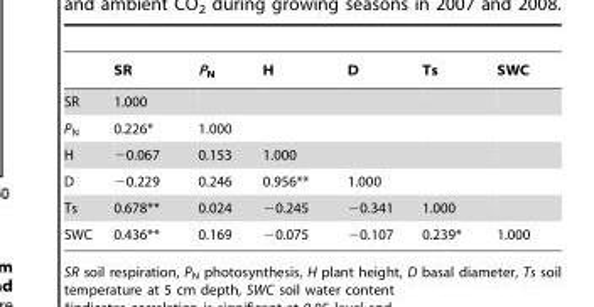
<table><thead><tr><td></td><td>SR</td><td>P<sub>N</sub></td><td>H</td><td>D</td><td>Ts</td><td>SWC</td></tr></thead><tbody><tr><td>SR</td><td>1.000</td><td></td><td></td><td></td><td></td><td></td></tr><tr><td>P<sub>N</sub></td><td>0.226*</td><td>1.000</td><td></td><td></td><td></td><td></td></tr><tr><td>H</td><td>−0.067</td><td>0.153</td><td>1.000</td><td></td><td></td><td></td></tr><tr><td>D</td><td>−0.229</td><td>0.246</td><td>0.956**</td><td>1.000</td><td></td><td></td></tr><tr><td>Ts</td><td>0.678**</td><td>0.024</td><td>−0.245</td><td>−0.341</td><td>1.000</td><td></td></tr><tr><td>SWC</td><td>0.436**</td><td>0.169</td><td>−0.075</td><td>−0.107</td><td>0.239*</td><td>1.000</td></tr></tbody></table>